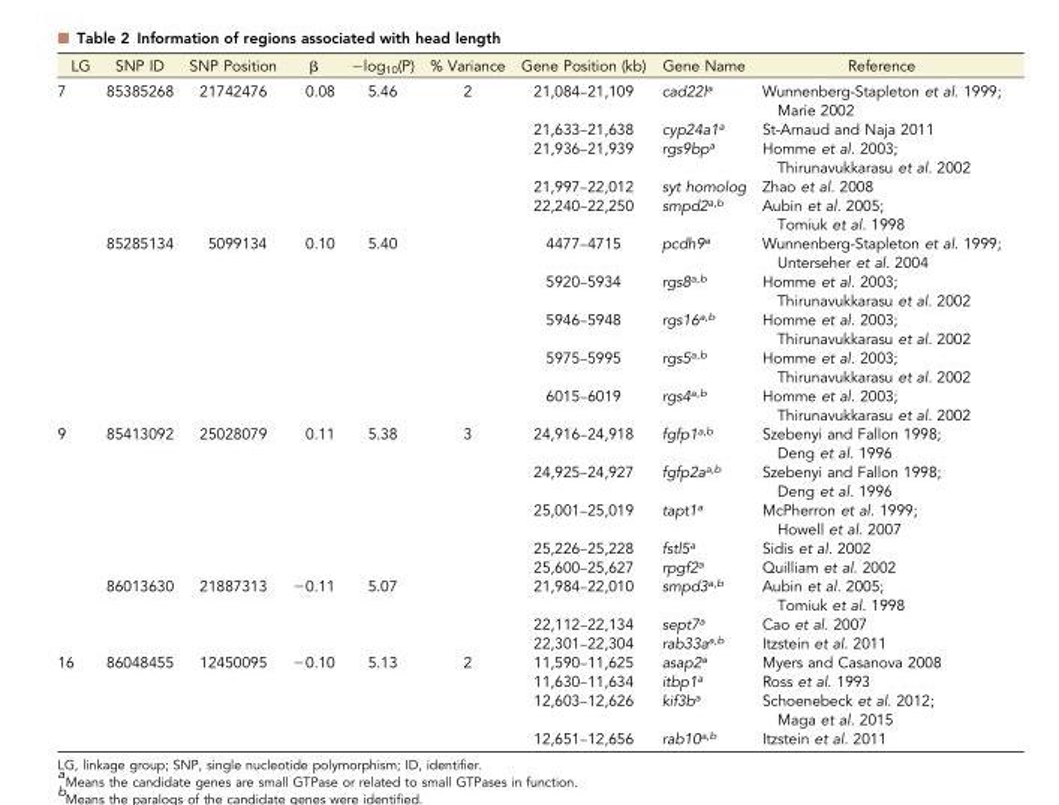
<table><thead><tr><td>LG</td><td>SNP ID</td><td>SNP Position</td><td>β</td><td>−log<sub>10</sub>(P)</td><td>% Variance</td><td>Gene Position (kb)</td><td>Gene Name</td><td>Reference</td></tr></thead><tbody><tr><td rowspan="10">7</td><td>85385268</td><td>21742476</td><td>0.08</td><td>5.46</td><td>2</td><td>21,084–21,109</td><td>cad22l<sup>a</sup></td><td>Wunnenberg-Stapleton et al. 1999; Marie 2002</td></tr><tr><td></td><td></td><td></td><td></td><td></td><td>21,633–21,638</td><td>cyp24a1<sup>a</sup></td><td>St-Arnaud and Naja 2011</td></tr><tr><td></td><td></td><td></td><td></td><td></td><td>21,936–21,939</td><td>rgs9bp<sup>a</sup></td><td>Homme et al. 2003; Thirunavukkarasu et al. 2002</td></tr><tr><td></td><td></td><td></td><td></td><td></td><td>21,997–22,012</td><td>syt homolog</td><td>Zhao et al. 2008</td></tr><tr><td></td><td></td><td></td><td></td><td></td><td>22,240–22,250</td><td>smpd2<sup>a,b</sup></td><td>Aubin et al. 2005; Tomiuk et al. 1998</td></tr><tr><td>85285134</td><td>5099134</td><td>0.10</td><td>5.40</td><td></td><td>4477–4715</td><td>pcdh9<sup>a</sup></td><td>Wunnenberg-Stapleton et al. 1999; Unterseher et al. 2004</td></tr><tr><td></td><td></td><td></td><td></td><td></td><td>5920–5934</td><td>rgs8<sup>a,b</sup></td><td>Homme et al. 2003; Thirunavukkarasu et al. 2002</td></tr><tr><td></td><td></td><td></td><td></td><td></td><td>5946–5948</td><td>rgs16<sup>a,b</sup></td><td>Homme et al. 2003; Thirunavukkarasu et al. 2002</td></tr><tr><td></td><td></td><td></td><td></td><td></td><td>5975–5995</td><td>rgs5<sup>a,b</sup></td><td>Homme et al. 2003; Thirunavukkarasu et al. 2002</td></tr><tr><td></td><td></td><td></td><td></td><td></td><td>6015–6019</td><td>rgs4<sup>a,b</sup></td><td>Homme et al. 2003; Thirunavukkarasu et al. 2002</td></tr><tr><td rowspan="8">9</td><td>85413092</td><td>25028079</td><td>0.11</td><td>5.38</td><td>3</td><td>24,916–24,918</td><td>fgfp1<sup>a,b</sup></td><td>Szebenyi and Fallon 1998; Deng et al. 1996</td></tr><tr><td></td><td></td><td></td><td></td><td></td><td>24,925–24,927</td><td>fgfp2a<sup>a,b</sup></td><td>Szebenyi and Fallon 1998; Deng et al. 1996</td></tr><tr><td></td><td></td><td></td><td></td><td></td><td>25,001–25,019</td><td>tapt1<sup>a</sup></td><td>McPherron et al. 1999; Howell et al. 2007</td></tr><tr><td></td><td></td><td></td><td></td><td></td><td>25,226–25,228</td><td>fstl5<sup>a</sup></td><td>Sidis et al. 2002</td></tr><tr><td></td><td></td><td></td><td></td><td></td><td>25,600–25,627</td><td>rpgf2<sup>a</sup></td><td>Quilliam et al. 2002</td></tr><tr><td>86013630</td><td>21887313</td><td>−0.11</td><td>5.07</td><td></td><td>21,984–22,010</td><td>smpd3<sup>a,b</sup></td><td>Aubin et al. 2005; Tomiuk et al. 1998</td></tr><tr><td></td><td></td><td></td><td></td><td></td><td>22,112–22,134</td><td>sept7<sup>a</sup></td><td>Cao et al. 2007</td></tr><tr><td></td><td></td><td></td><td></td><td></td><td>22,301–22,304</td><td>rab33a<sup>a,b</sup></td><td>Itzstein et al. 2011</td></tr><tr><td rowspan="4">16</td><td>86048455</td><td>12450095</td><td>−0.10</td><td>5.13</td><td>2</td><td>11,590–11,625</td><td>asap2<sup>a</sup></td><td>Myers and Casanova 2008</td></tr><tr><td></td><td></td><td></td><td></td><td></td><td>11,630–11,634</td><td>itbp1<sup>a</sup></td><td>Ross et al. 1993</td></tr><tr><td></td><td></td><td></td><td></td><td></td><td>12,603–12,626</td><td>kif3b<sup>a</sup></td><td>Schoenebeck et al. 2012; Maga et al. 2015</td></tr><tr><td></td><td></td><td></td><td></td><td></td><td>12,651–12,656</td><td>rab10<sup>a,b</sup></td><td>Itzstein et al. 2011</td></tr></tbody></table>